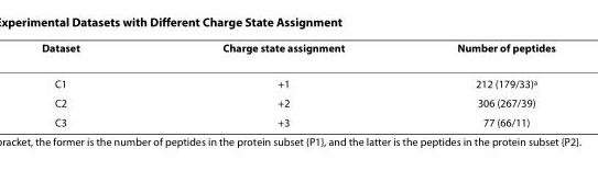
<table><thead><tr><td>Dataset</td><td>Charge state assignment</td><td>Number of peptides</td></tr></thead><tbody><tr><td>C1</td><td>+1</td><td>212 (179/33)<sup>a</sup></td></tr><tr><td>C2</td><td>+2</td><td>306 (267/39)</td></tr><tr><td>C3</td><td>+3</td><td>77 (66/11)</td></tr></tbody></table>